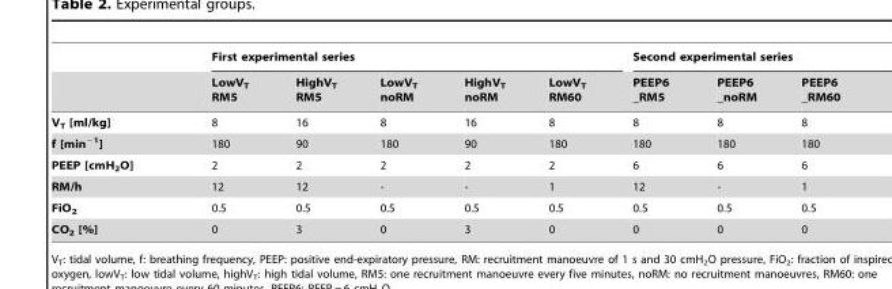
<table><thead><tr><td rowspan="2"></td><td colspan="5">First experimental series</td><td colspan="3">Second experimental series</td></tr><tr><td>LowV<sub>T</sub> RM5</td><td>HighV<sub>T</sub> RM5</td><td>LowV<sub>T</sub> noRM</td><td>HighV<sub>T</sub> noRM</td><td>LowV<sub>T</sub> RM60</td><td>PEEP6 _RM5</td><td>PEEP6 _noRM</td><td>PEEP6 _RM60</td></tr></thead><tbody><tr><td>V<sub>T</sub> [ml/kg]</td><td>8</td><td>16</td><td>8</td><td>16</td><td>8</td><td>8</td><td>8</td><td>8</td></tr><tr><td>f [min<sup>−1</sup>]</td><td>180</td><td>90</td><td>180</td><td>90</td><td>180</td><td>180</td><td>180</td><td>180</td></tr><tr><td>PEEP [cmH<sub>2</sub>O]</td><td>2</td><td>2</td><td>2</td><td>2</td><td>2</td><td>6</td><td>6</td><td>6</td></tr><tr><td>RM/h</td><td>12</td><td>12</td><td>-</td><td>-</td><td>1</td><td>12</td><td>-</td><td>1</td></tr><tr><td>FiO<sub>2</sub></td><td>0.5</td><td>0.5</td><td>0.5</td><td>0.5</td><td>0.5</td><td>0.5</td><td>0.5</td><td>0.5</td></tr><tr><td>CO<sub>2</sub> [%]</td><td>0</td><td>3</td><td>0</td><td>3</td><td>0</td><td>0</td><td>0</td><td>0</td></tr></tbody></table>